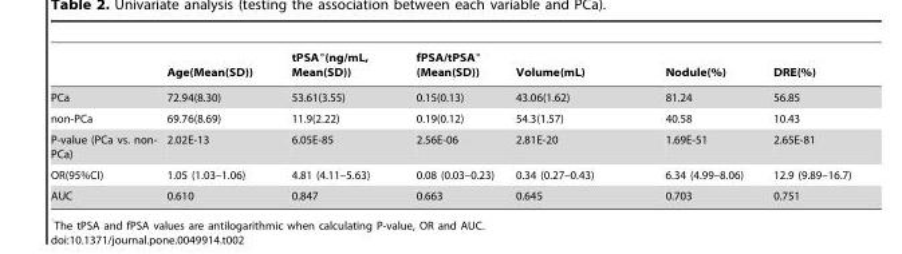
<table><thead><tr><td></td><td>Age(Mean(SD))</td><td>tPSA°(ng/mL, Mean(SD))</td><td>fPSA/tPSA° (Mean(SD))</td><td>Volume(mL)</td><td>Nodule(%)</td><td>DRE(%)</td></tr></thead><tbody><tr><td>PCa</td><td>72.94(8.30)</td><td>53.61(3.55)</td><td>0.15(0.13)</td><td>43.06(1.62)</td><td>81.24</td><td>56.85</td></tr><tr><td>non-PCa</td><td>69.76(8.69)</td><td>11.9(2.22)</td><td>0.19(0.12)</td><td>54.3(1.57)</td><td>40.58</td><td>10.43</td></tr><tr><td>P-value (PCa vs. non- PCa)</td><td>2.02E-13</td><td>6.05E-85</td><td>2.56E-06</td><td>2.81E-20</td><td>1.69E-51</td><td>2.65E-81</td></tr><tr><td>OR(95%CI)</td><td>1.05 (1.03–1.06)</td><td>4.81 (4.11–5.63)</td><td>0.08 (0.03–0.23)</td><td>0.34 (0.27–0.43)</td><td>6.34 (4.99–8.06)</td><td>12.9 (9.89–16.7)</td></tr><tr><td>AUC</td><td>0.610</td><td>0.847</td><td>0.663</td><td>0.645</td><td>0.703</td><td>0.751</td></tr></tbody></table>